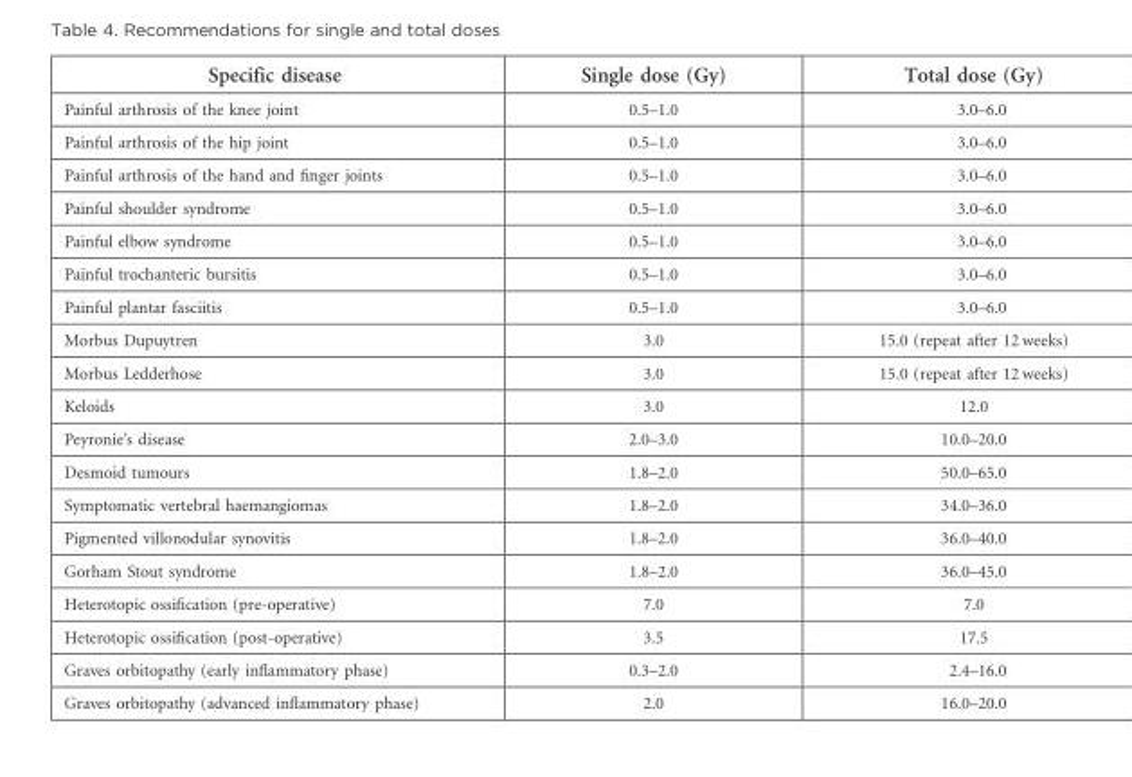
<table><thead><tr><td>Specific disease</td><td>Single dose (Gy)</td><td>Total dose (Gy)</td></tr></thead><tbody><tr><td>Painful arthrosis of the knee joint</td><td>0.5–1.0</td><td>3.0–6.0</td></tr><tr><td>Painful arthrosis of the hip joint</td><td>0.5–1.0</td><td>3.0–6.0</td></tr><tr><td>Painful arthrosis of the hand and finger joints</td><td>0.5–1.0</td><td>3.0–6.0</td></tr><tr><td>Painful shoulder syndrome</td><td>0.5–1.0</td><td>3.0–6.0</td></tr><tr><td>Painful elbow syndrome</td><td>0.5–1.0</td><td>3.0–6.0</td></tr><tr><td>Painful trochanteric bursitis</td><td>0.5–1.0</td><td>3.0–6.0</td></tr><tr><td>Painful plantar fasciitis</td><td>0.5–1.0</td><td>3.0–6.0</td></tr><tr><td>Morbus Dupuytren</td><td>3.0</td><td>15.0 (repeat after 12 weeks)</td></tr><tr><td>Morbus Ledderhose</td><td>3.0</td><td>15.0 (repeat after 12 weeks)</td></tr><tr><td>Keloids</td><td>3.0</td><td>12.0</td></tr><tr><td>Peyronie’s disease</td><td>2.0–3.0</td><td>10.0–20.0</td></tr><tr><td>Desmoid tumours</td><td>1.8–2.0</td><td>50.0–65.0</td></tr><tr><td>Symptomatic vertebral haemangiomas</td><td>1.8–2.0</td><td>34.0–36.0</td></tr><tr><td>Pigmented villonodular synovitis</td><td>1.8–2.0</td><td>36.0–40.0</td></tr><tr><td>Gorham Stout syndrome</td><td>1.8–2.0</td><td>36.0–45.0</td></tr><tr><td>Heterotopic ossification (pre-operative)</td><td>7.0</td><td>7.0</td></tr><tr><td>Heterotopic ossification (post-operative)</td><td>3.5</td><td>17.5</td></tr><tr><td>Graves orbitopathy (early inflammatory phase)</td><td>0.3–2.0</td><td>2.4–16.0</td></tr><tr><td>Graves orbitopathy (advanced inflammatory phase)</td><td>2.0</td><td>16.0–20.0</td></tr></tbody></table>